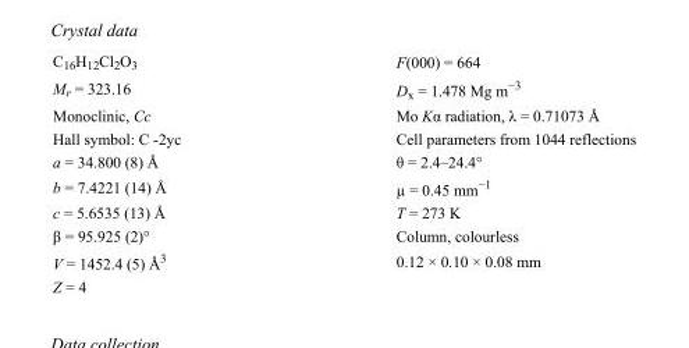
<table><tbody><tr><td>C<sub>16</sub>H<sub>12</sub>Cl<sub>2</sub>O<sub>3</sub></td><td>F(000) = 664</td></tr><tr><td>M<sub>r</sub> = 323.16</td><td>D<sub>x</sub> = 1.478 Mg m<sup>−3</sup></td></tr><tr><td>Monoclinic, Cc</td><td>Mo Kα radiation, λ = 0.71073 Å</td></tr><tr><td>Hall symbol: C -2yc</td><td>Cell parameters from 1044 reflections</td></tr><tr><td>a = 34.800 (8) Å</td><td>θ = 2.4–24.4°</td></tr><tr><td>b = 7.4221 (14) Å</td><td>µ = 0.45 mm<sup>−1</sup></td></tr><tr><td>c = 5.6535 (13) Å</td><td>T = 273 K</td></tr><tr><td>β = 95.925 (2)°</td><td>Column, colourless</td></tr><tr><td>V = 1452.4 (5) Å<sup>3</sup></td><td>0.12 × 0.10 × 0.08 mm</td></tr><tr><td>Z = 4</td><td></td></tr></tbody></table>